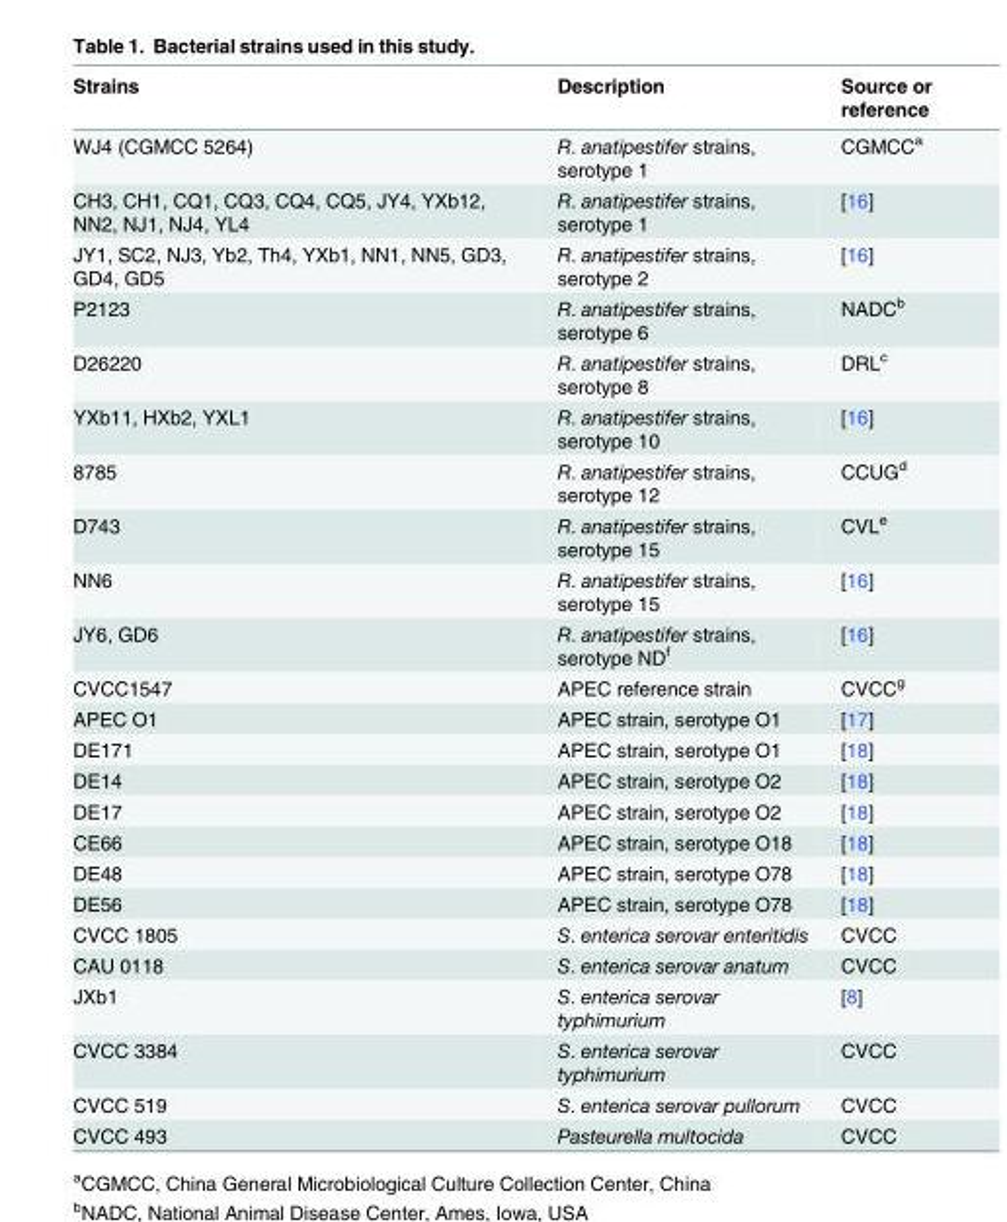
<table><thead><tr><td>Strains</td><td>Description</td><td>Source or reference</td></tr></thead><tbody><tr><td>WJ4 (CGMCC 5264)</td><td>R. anatipestifer strains, serotype 1</td><td>CGMCC<sup>a</sup></td></tr><tr><td>CH3, CH1, CQ1, CQ3, CQ4, CQ5, JY4, YXb12, NN2, NJ1, NJ4, YL4</td><td>R. anatipestifer strains, serotype 1</td><td>[16]</td></tr><tr><td>JY1, SC2, NJ3, Yb2, Th4, YXb1, NN1, NN5, GD3, GD4, GD5</td><td>R. anatipestifer strains, serotype 2</td><td>[16]</td></tr><tr><td>P2123</td><td>R. anatipestifer strains, serotype 6</td><td>NADC<sup>b</sup></td></tr><tr><td>D26220</td><td>R. anatipestifer strains, serotype 8</td><td>DRL<sup>c</sup></td></tr><tr><td>YXb11, HXb2, YXL1</td><td>R. anatipestifer strains, serotype 10</td><td>[16]</td></tr><tr><td>8785</td><td>R. anatipestifer strains, serotype 12</td><td>CCUG<sup>d</sup></td></tr><tr><td>D743</td><td>R. anatipestifer strains, serotype 15</td><td>CVL<sup>e</sup></td></tr><tr><td>NN6</td><td>R. anatipestifer strains, serotype 15</td><td>[16]</td></tr><tr><td>JY6, GD6</td><td>R. anatipestifer strains, serotype ND<sup>f</sup></td><td>[16]</td></tr><tr><td>CVCC1547</td><td>APEC reference strain</td><td>CVCC<sup>g</sup></td></tr><tr><td>APEC O1</td><td>APEC strain, serotype O1</td><td>[17]</td></tr><tr><td>DE171</td><td>APEC strain, serotype O1</td><td>[18]</td></tr><tr><td>DE14</td><td>APEC strain, serotype O2</td><td>[18]</td></tr><tr><td>DE17</td><td>APEC strain, serotype O2</td><td>[18]</td></tr><tr><td>CE66</td><td>APEC strain, serotype O18</td><td>[18]</td></tr><tr><td>DE48</td><td>APEC strain, serotype O78</td><td>[18]</td></tr><tr><td>DE56</td><td>APEC strain, serotype O78</td><td>[18]</td></tr><tr><td>CVCC 1805</td><td>S. enterica serovar enteritidis</td><td>CVCC</td></tr><tr><td>CAU 0118</td><td>S. enterica serovar anatum</td><td>CVCC</td></tr><tr><td>JXb1</td><td>S. enterica serovar typhimurium</td><td>[8]</td></tr><tr><td>CVCC 3384</td><td>S. enterica serovar typhimurium</td><td>CVCC</td></tr><tr><td>CVCC 519</td><td>S. enterica serovar pullorum</td><td>CVCC</td></tr><tr><td>CVCC 493</td><td>Pasteurella multocida</td><td>CVCC</td></tr></tbody></table>